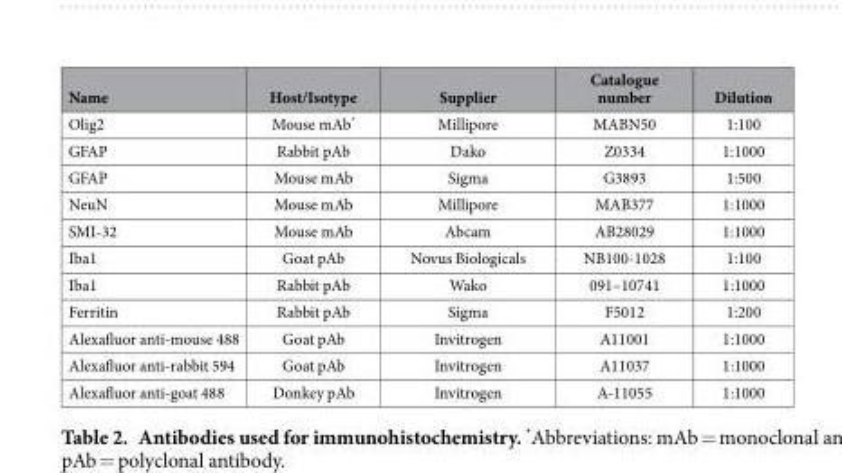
<table><thead><tr><td>Name</td><td>Host/Isotype</td><td>Supplier</td><td>Catalogue number</td><td>Dilution</td></tr></thead><tbody><tr><td>Olig2</td><td>Mouse mAb*</td><td>Millipore</td><td>MABN50</td><td>1:100</td></tr><tr><td>GFAP</td><td>Rabbit pAb</td><td>Dako</td><td>Z0334</td><td>1:1000</td></tr><tr><td>GFAP</td><td>Mouse mAb</td><td>Sigma</td><td>G3893</td><td>1:500</td></tr><tr><td>NeuN</td><td>Mouse mAb</td><td>Millipore</td><td>MAB377</td><td>1:1000</td></tr><tr><td>SMI-32</td><td>Mouse mAb</td><td>Abcam</td><td>AB28029</td><td>1:1000</td></tr><tr><td>Iba1</td><td>Goat pAb</td><td>Novus Biologicals</td><td>NB100-1028</td><td>1:100</td></tr><tr><td>Iba1</td><td>Rabbit pAb</td><td>Wako</td><td>091–10741</td><td>1:1000</td></tr><tr><td>Ferritin</td><td>Rabbit pAb</td><td>Sigma</td><td>F5012</td><td>1:200</td></tr><tr><td>Alexafluor anti-mouse 488</td><td>Goat pAb</td><td>Invitrogen</td><td>A11001</td><td>1:1000</td></tr><tr><td>Alexafluor anti-rabbit 594</td><td>Goat pAb</td><td>Invitrogen</td><td>A11037</td><td>1:1000</td></tr><tr><td>Alexafluor anti-goat 488</td><td>Donkey pAb</td><td>Invitrogen</td><td>A-11055</td><td>1:1000</td></tr></tbody></table>